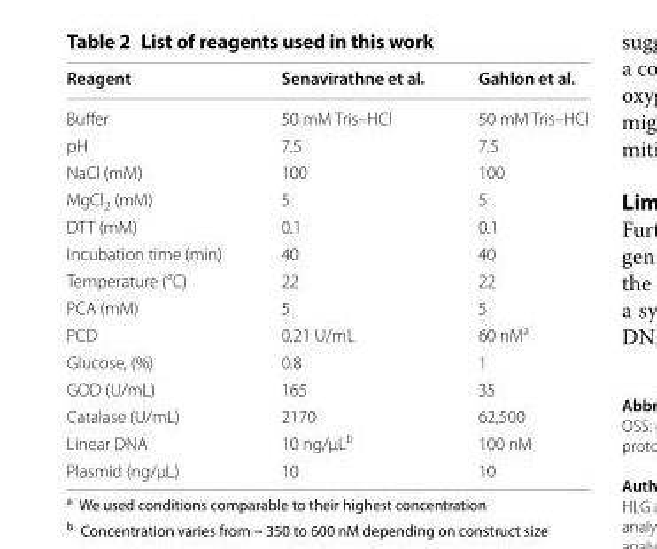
<table><thead><tr><td>Reagent</td><td>Senavirathne et al.</td><td>Gahlon et al.</td></tr></thead><tbody><tr><td>Buffer</td><td>50 mM Tris–HCl</td><td>50 mM Tris–HCl</td></tr><tr><td>pH</td><td>7.5</td><td>7.5</td></tr><tr><td>NaCl (mM)</td><td>100</td><td>100</td></tr><tr><td>MgCl<sub>2</sub> (mM)</td><td>5</td><td>5</td></tr><tr><td>DTT (mM)</td><td>0.1</td><td>0.1</td></tr><tr><td>Incubation time (min)</td><td>40</td><td>40</td></tr><tr><td>Temperature (°C)</td><td>22</td><td>22</td></tr><tr><td>PCA (mM)</td><td>5</td><td>5</td></tr><tr><td>PCD</td><td>0.21 U/mL</td><td>60 nM<sup>a</sup></td></tr><tr><td>Glucose, (%)</td><td>0.8</td><td>1</td></tr><tr><td>GOD (U/mL)</td><td>165</td><td>35</td></tr><tr><td>Catalase (U/mL)</td><td>2170</td><td>62,500</td></tr><tr><td>Linear DNA</td><td>10 ng/µL<sup>b</sup></td><td>100 nM</td></tr><tr><td>Plasmid (ng/µL)</td><td>10</td><td>10</td></tr></tbody></table>